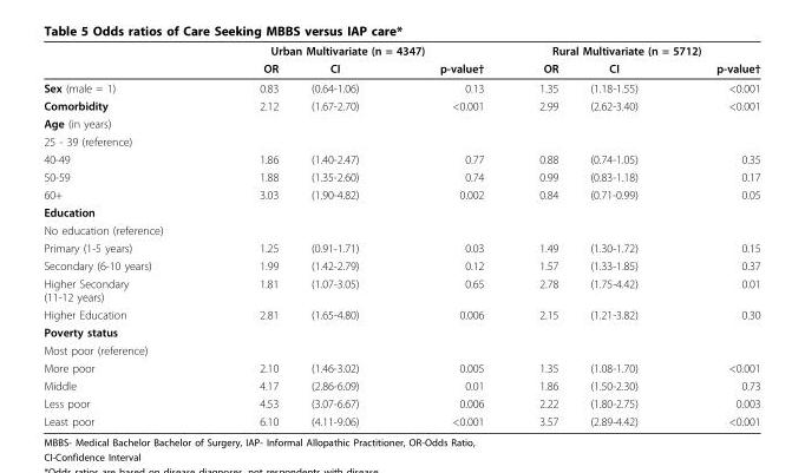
<table><thead><tr><td rowspan="2"></td><td colspan="3">Urban Multivariate (n = 4347)</td><td colspan="3">Rural Multivariate (n = 5712)</td></tr><tr><td>OR</td><td>CI</td><td>p-value†</td><td>OR</td><td>CI</td><td>p-value†</td></tr></thead><tbody><tr><td>Sex (male = 1)</td><td>0.83</td><td>(0.64-1.06)</td><td>0.13</td><td>1.35</td><td>(1.18-1.55)</td><td>&lt;0.001</td></tr><tr><td>Comorbidity</td><td>2.12</td><td>(1.67-2.70)</td><td>&lt;0.001</td><td>2.99</td><td>(2.62-3.40)</td><td>&lt;0.001</td></tr><tr><td colspan="7">Age (in years)</td></tr><tr><td colspan="7">25 - 39 (reference)</td></tr><tr><td>40-49</td><td>1.86</td><td>(1.40-2.47)</td><td>0.77</td><td>0.88</td><td>(0.74-1.05)</td><td>0.35</td></tr><tr><td>50-59</td><td>1.88</td><td>(1.35-2.60)</td><td>0.74</td><td>0.99</td><td>(0.83-1.18)</td><td>0.17</td></tr><tr><td>60+</td><td>3.03</td><td>(1.90-4.82)</td><td>0.002</td><td>0.84</td><td>(0.71-0.99)</td><td>0.05</td></tr><tr><td colspan="7">Education</td></tr><tr><td colspan="7">No education (reference)</td></tr><tr><td>Primary (1-5 years)</td><td>1.25</td><td>(0.91-1.71)</td><td>0.03</td><td>1.49</td><td>(1.30-1.72)</td><td>0.15</td></tr><tr><td>Secondary (6-10 years)</td><td>1.99</td><td>(1.42-2.79)</td><td>0.12</td><td>1.57</td><td>(1.33-1.85)</td><td>0.37</td></tr><tr><td>Higher Secondary (11-12 years)</td><td>1.81</td><td>(1.07-3.05)</td><td>0.65</td><td>2.78</td><td>(1.75-4.42)</td><td>0.01</td></tr><tr><td>Higher Education</td><td>2.81</td><td>(1.65-4.80)</td><td>0.006</td><td>2.15</td><td>(1.21-3.82)</td><td>0.30</td></tr><tr><td colspan="7">Poverty status</td></tr><tr><td colspan="7">Most poor (reference)</td></tr><tr><td>More poor</td><td>2.10</td><td>(1.46-3.02)</td><td>0.005</td><td>1.35</td><td>(1.08-1.70)</td><td>&lt;0.001</td></tr><tr><td>Middle</td><td>4.17</td><td>(2.86-6.09)</td><td>0.01</td><td>1.86</td><td>(1.50-2.30)</td><td>0.73</td></tr><tr><td>Less poor</td><td>4.53</td><td>(3.07-6.67)</td><td>0.006</td><td>2.22</td><td>(1.80-2.75)</td><td>0.003</td></tr><tr><td>Least poor</td><td>6.10</td><td>(4.11-9.06)</td><td>&lt;0.001</td><td>3.57</td><td>(2.89-4.42)</td><td>&lt;0.001</td></tr></tbody></table>